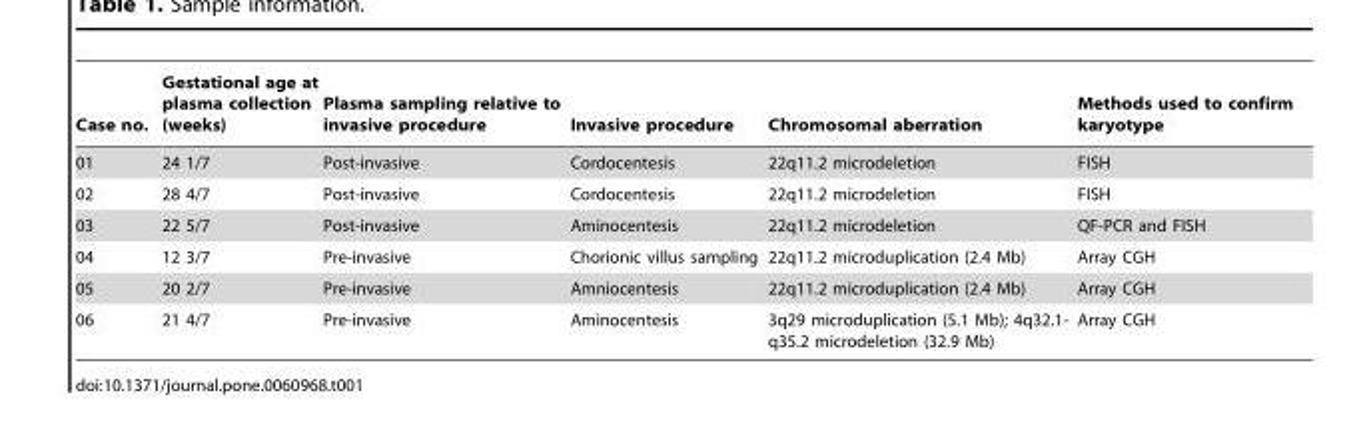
<table><thead><tr><td>Case no.</td><td>Gestational age at plasma collection (weeks)</td><td>Plasma sampling relative to invasive procedure</td><td>Invasive procedure</td><td>Chromosomal aberration</td><td>Methods used to confirm karyotype</td></tr></thead><tbody><tr><td>01</td><td>24 1/7</td><td>Post-invasive</td><td>Cordocentesis</td><td>22q11.2 microdeletion</td><td>FISH</td></tr><tr><td>02</td><td>28 4/7</td><td>Post-invasive</td><td>Cordocentesis</td><td>22q11.2 microdeletion</td><td>FISH</td></tr><tr><td>03</td><td>22 5/7</td><td>Post-invasive</td><td>Aminocentesis</td><td>22q11.2 microdeletion</td><td>QF-PCR and FISH</td></tr><tr><td>04</td><td>12 3/7</td><td>Pre-invasive</td><td>Chorionic villus sampling</td><td>22q11.2 microduplication (2.4 Mb)</td><td>Array CGH</td></tr><tr><td>05</td><td>20 2/7</td><td>Pre-invasive</td><td>Amniocentesis</td><td>22q11.2 microduplication (2.4 Mb)</td><td>Array CGH</td></tr><tr><td>06</td><td>21 4/7</td><td>Pre-invasive</td><td>Aminocentesis</td><td>3q29 microduplication (5.1 Mb); 4q32.1- q35.2 microdeletion (32.9 Mb)</td><td>Array CGH</td></tr></tbody></table>